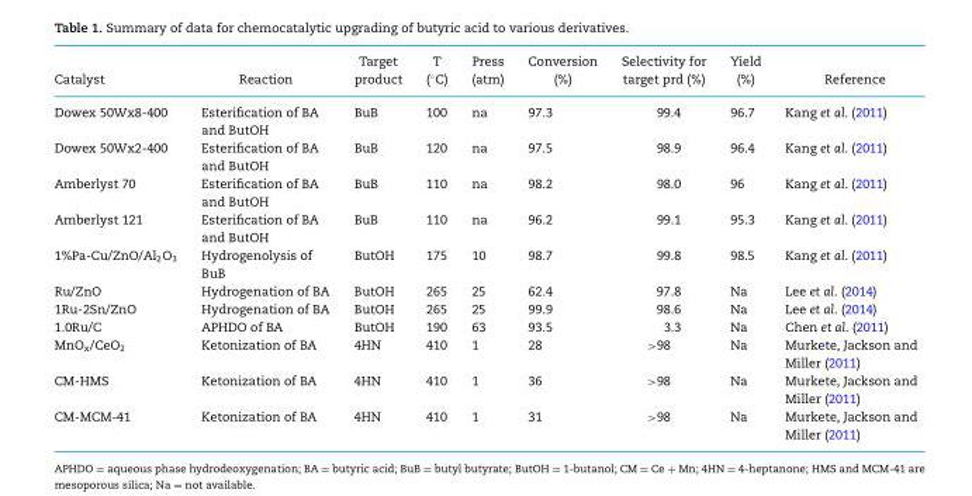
<table><thead><tr><td rowspan="2">Catalyst</td><td rowspan="2">Reaction</td><td rowspan="2">Target product</td><td rowspan="2">T (◦C)</td><td rowspan="2">Press (atm)</td><td rowspan="2">Conversion (%)</td><td rowspan="2">Selectivity for target prd (%)</td><td rowspan="2">Yield (%)</td><td rowspan="2">Reference</td></tr><tr></tr></thead><tbody><tr><td>Dowex 50Wx8-400</td><td>Esterification of BA and ButOH</td><td>BuB</td><td>100</td><td>na</td><td>97.3</td><td>99.4</td><td>96.7</td><td>Kang et al. (2011)</td></tr><tr><td>Dowex 50Wx2-400</td><td>Esterification of BA and ButOH</td><td>BuB</td><td>120</td><td>na</td><td>97.5</td><td>98.9</td><td>96.4</td><td>Kang et al. (2011)</td></tr><tr><td>Amberlyst 70</td><td>Esterification of BA and ButOH</td><td>BuB</td><td>110</td><td>na</td><td>98.2</td><td>98.0</td><td>96</td><td>Kang et al. (2011)</td></tr><tr><td>Amberlyst 121</td><td>Esterification of BA and ButOH</td><td>BuB</td><td>110</td><td>na</td><td>96.2</td><td>99.1</td><td>95.3</td><td>Kang et al. (2011)</td></tr><tr><td>1%Pa-Cu/ZnO/Al<sub>2</sub>O<sub>3</sub></td><td>Hydrogenolysis of BuB</td><td>ButOH</td><td>175</td><td>10</td><td>98.7</td><td>99.8</td><td>98.5</td><td>Kang et al. (2011)</td></tr><tr><td>Ru/ZnO</td><td>Hydrogenation of BA</td><td>ButOH</td><td>265</td><td>25</td><td>62.4</td><td>97.8</td><td>Na</td><td>Lee et al. (2014)</td></tr><tr><td>1Ru-2Sn/ZnO</td><td>Hydrogenation of BA</td><td>ButOH</td><td>265</td><td>25</td><td>99.9</td><td>98.6</td><td>Na</td><td>Lee et al. (2014)</td></tr><tr><td>1.0Ru/C</td><td>APHDO of BA</td><td>ButOH</td><td>190</td><td>63</td><td>93.5</td><td>3.3</td><td>Na</td><td>Chen et al. (2011)</td></tr><tr><td>MnO<sub>x</sub>/CeO<sub>2</sub></td><td>Ketonization of BA</td><td>4HN</td><td>410</td><td>1</td><td>28</td><td>&gt;98</td><td>Na</td><td>Murkete, Jackson and Miller (2011)</td></tr><tr><td>CM-HMS</td><td>Ketonization of BA</td><td>4HN</td><td>410</td><td>1</td><td>36</td><td>&gt;98</td><td>Na</td><td>Murkete, Jackson and Miller (2011)</td></tr><tr><td>CM-MCM-41</td><td>Ketonization of BA</td><td>4HN</td><td>410</td><td>1</td><td>31</td><td>&gt;98</td><td>Na</td><td>Murkete, Jackson and Miller (2011)</td></tr></tbody></table>